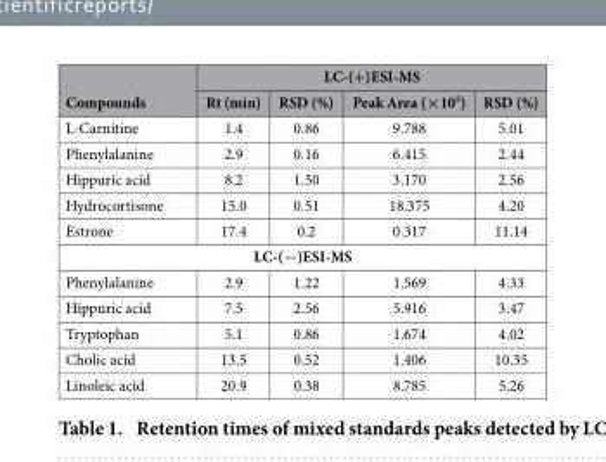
<table><thead><tr><td rowspan="2">Compounds</td><td colspan="4">LC-(+)ESI-MS</td></tr><tr><td>Rt (min)</td><td>RSD (%)</td><td>Peak Area (×10<sup>5</sup>)</td><td>RSD (%)</td></tr></thead><tbody><tr><td>L-Carnitine</td><td>1.4</td><td>0.86</td><td>9.788</td><td>5.01</td></tr><tr><td>Phenylalanine</td><td>2.9</td><td>0.16</td><td>6.415</td><td>2.44</td></tr><tr><td>Hippuric acid</td><td>8.2</td><td>1.50</td><td>3.170</td><td>2.56</td></tr><tr><td>Hydrocortisone</td><td>15.0</td><td>0.51</td><td>18.375</td><td>4.20</td></tr><tr><td>Estrone</td><td>17.4</td><td>0.2</td><td>0.317</td><td>11.14</td></tr><tr><td colspan="5">LC-(−)ESI-MS</td></tr><tr><td>Phenylalanine</td><td>2.9</td><td>1.22</td><td>1.569</td><td>4.33</td></tr><tr><td>Hippuric acid</td><td>7.5</td><td>2.56</td><td>5.916</td><td>3.47</td></tr><tr><td>Tryptophan</td><td>5.1</td><td>0.86</td><td>1.674</td><td>4.02</td></tr><tr><td>Cholic acid</td><td>13.5</td><td>0.52</td><td>1.406</td><td>10.35</td></tr><tr><td>Linoleic acid</td><td>20.9</td><td>0.38</td><td>8.785</td><td>5.26</td></tr></tbody></table>